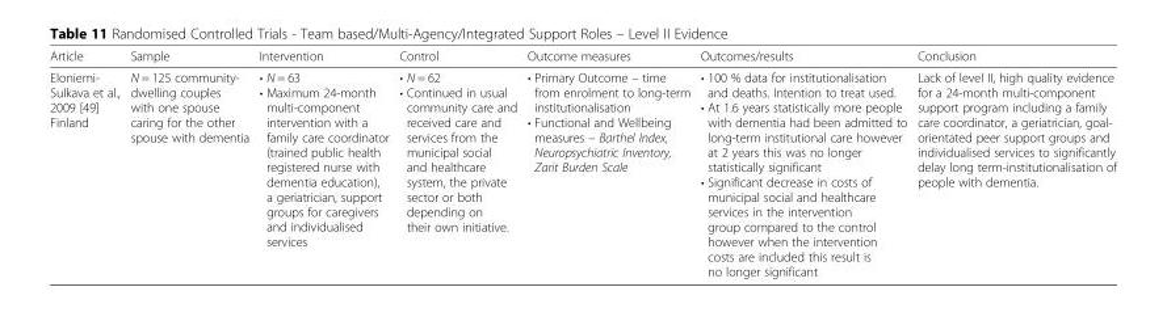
<table><thead><tr><td>Article</td><td>Sample</td><td>Intervention</td><td>Control</td><td>Outcome measures</td><td>Outcomes/results</td><td>Conclusion</td></tr></thead><tbody><tr><td>Eloniemi- Sulkava et al., 2009 [49] Finland</td><td>N = 125 community- dwelling couples with one spouse caring for the other spouse with dementia</td><td>• N = 63 • Maximum 24-month multi-component intervention with a family care coordinator (trained public health registered nurse with dementia education), a geriatrician, support groups for caregivers and individualised services</td><td>• N = 62 • Continued in usual community care and received care and services from the municipal social and healthcare system, the private sector or both depending on their own initiative.</td><td>• Primary Outcome – time from enrolment to long-term institutionalisation • Functional and Wellbeing measures – Barthel Index, Neuropsychiatric Inventory, Zarit Burden Scale</td><td>• 100 % data for institutionalisation and deaths. Intention to treat used. • At 1.6 years statistically more people with dementia had been admitted to long-term institutional care however at 2 years this was no longer statistically significant • Significant decrease in costs of municipal social and healthcare services in the intervention group compared to the control however when the intervention costs are included this result is no longer significant</td><td>Lack of level II, high quality evidence for a 24-month multi-component support program including a family care coordinator, a geriatrician, goal- orientated peer support groups and individualised services to significantly delay long term-institutionalisation of people with dementia.</td></tr></tbody></table>